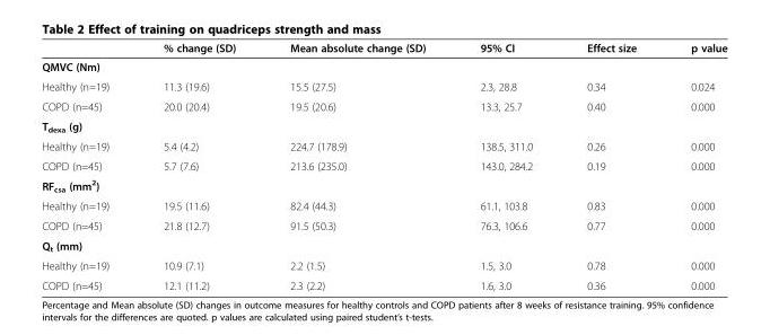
<table><thead><tr><td></td><td>% change (SD)</td><td>Mean absolute change (SD)</td><td>95% CI</td><td>Effect size</td><td>p value</td></tr></thead><tbody><tr><td colspan="6">QMVC (Nm)</td></tr><tr><td>Healthy (n=19)</td><td>11.3 (19.6)</td><td>15.5 (27.5)</td><td>2.3, 28.8</td><td>0.34</td><td>0.024</td></tr><tr><td>COPD (n=45)</td><td>20.0 (20.4)</td><td>19.5 (20.6)</td><td>13.3, 25.7</td><td>0.40</td><td>0.000</td></tr><tr><td colspan="6">T<sub>dexa</sub> (g)</td></tr><tr><td>Healthy (n=19)</td><td>5.4 (4.2)</td><td>224.7 (178.9)</td><td>138.5, 311.0</td><td>0.26</td><td>0.000</td></tr><tr><td>COPD (n=45)</td><td>5.7 (7.6)</td><td>213.6 (235.0)</td><td>143.0, 284.2</td><td>0.19</td><td>0.000</td></tr><tr><td colspan="6">RF<sub>csa</sub> (mm<sup>2</sup>)</td></tr><tr><td>Healthy (n=19)</td><td>19.5 (11.6)</td><td>82.4 (44.3)</td><td>61.1, 103.8</td><td>0.83</td><td>0.000</td></tr><tr><td>COPD (n=45)</td><td>21.8 (12.7)</td><td>91.5 (50.3)</td><td>76.3, 106.6</td><td>0.77</td><td>0.000</td></tr><tr><td colspan="6">Q<sub>t</sub> (mm)</td></tr><tr><td>Healthy (n=19)</td><td>10.9 (7.1)</td><td>2.2 (1.5)</td><td>1.5, 3.0</td><td>0.78</td><td>0.000</td></tr><tr><td>COPD (n=45)</td><td>12.1 (11.2)</td><td>2.3 (2.2)</td><td>1.6, 3.0</td><td>0.36</td><td>0.000</td></tr></tbody></table>